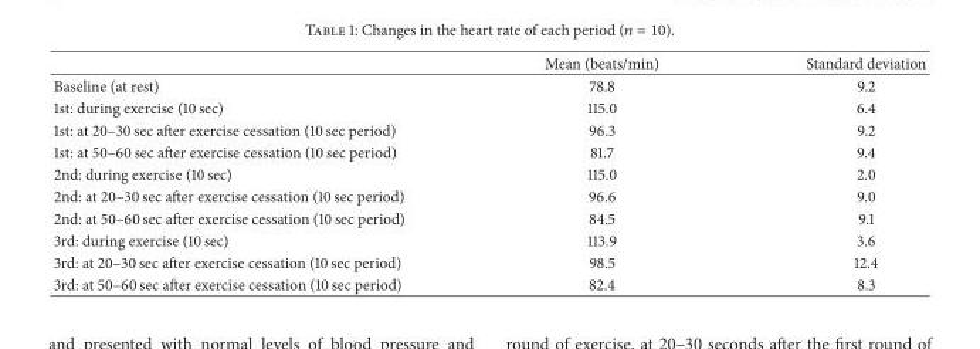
<table><thead><tr><td></td><td>Mean (beats/min)</td><td>Standard deviation</td></tr></thead><tbody><tr><td>Baseline (at rest)</td><td>78.8</td><td>9.2</td></tr><tr><td>1st: during exercise (10 sec)</td><td>115.0</td><td>6.4</td></tr><tr><td>1st: at 20–30 sec after exercise cessation (10 sec period)</td><td>96.3</td><td>9.2</td></tr><tr><td>1st: at 50–60 sec after exercise cessation (10 sec period)</td><td>81.7</td><td>9.4</td></tr><tr><td>2nd: during exercise (10 sec)</td><td>115.0</td><td>2.0</td></tr><tr><td>2nd: at 20–30 sec after exercise cessation (10 sec period)</td><td>96.6</td><td>9.0</td></tr><tr><td>2nd: at 50–60 sec after exercise cessation (10 sec period)</td><td>84.5</td><td>9.1</td></tr><tr><td>3rd: during exercise (10 sec)</td><td>113.9</td><td>3.6</td></tr><tr><td>3rd: at 20–30 sec after exercise cessation (10 sec period)</td><td>98.5</td><td>12.4</td></tr><tr><td>3rd: at 50–60 sec after exercise cessation (10 sec period)</td><td>82.4</td><td>8.3</td></tr></tbody></table>